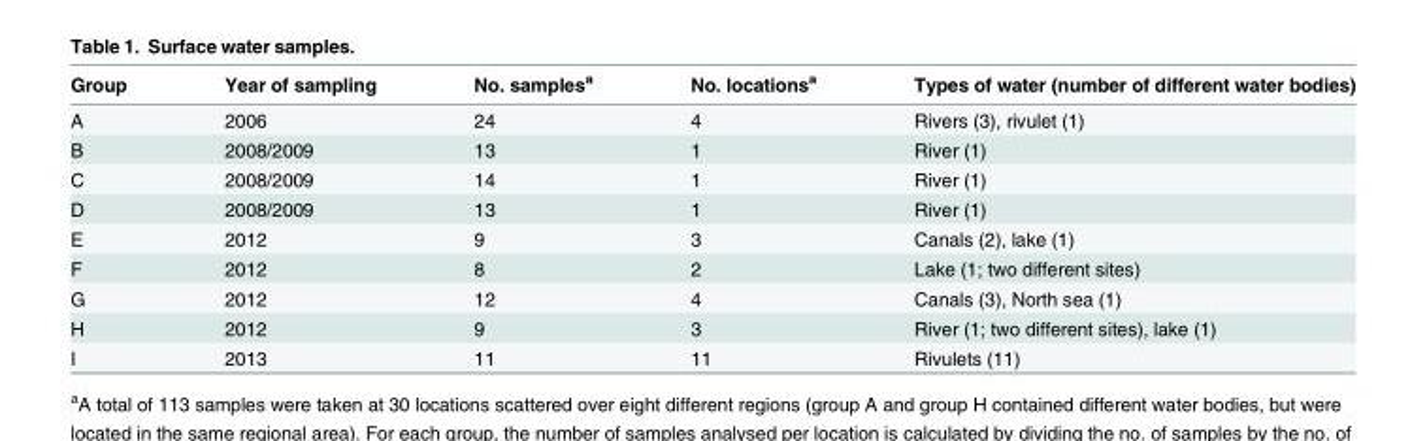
<table><thead><tr><td>Group</td><td>Year of sampling</td><td>No. samples<sup>a</sup></td><td>No. locations<sup>a</sup></td><td>Types of water (number of different water bodies)</td></tr></thead><tbody><tr><td>A</td><td>2006</td><td>24</td><td>4</td><td>Rivers (3), rivulet (1)</td></tr><tr><td>B</td><td>2008/2009</td><td>13</td><td>1</td><td>River (1)</td></tr><tr><td>C</td><td>2008/2009</td><td>14</td><td>1</td><td>River (1)</td></tr><tr><td>D</td><td>2008/2009</td><td>13</td><td>1</td><td>River (1)</td></tr><tr><td>E</td><td>2012</td><td>9</td><td>3</td><td>Canals (2), lake (1)</td></tr><tr><td>F</td><td>2012</td><td>8</td><td>2</td><td>Lake (1; two different sites)</td></tr><tr><td>G</td><td>2012</td><td>12</td><td>4</td><td>Canals (3), North sea (1)</td></tr><tr><td>H</td><td>2012</td><td>9</td><td>3</td><td>River (1; two different sites), lake (1)</td></tr><tr><td>I</td><td>2013</td><td>11</td><td>11</td><td>Rivulets (11)</td></tr></tbody></table>